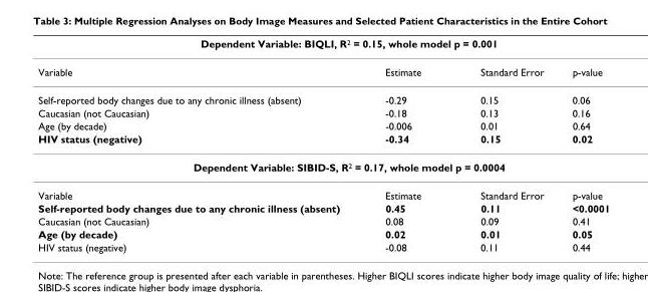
<table><thead><tr><td colspan="4">Dependent Variable: BIQLI, R<sup>2</sup> = 0.15, whole model p = 0.001</td></tr><tr><td>Variable</td><td>Estimate</td><td>Standard Error</td><td>p-value</td></tr></thead><tbody><tr><td>Self-reported body changes due to any chronic illness (absent)</td><td>-0.29</td><td>0.15</td><td>0.06</td></tr><tr><td>Caucasian (not Caucasian)</td><td>-0.18</td><td>0.13</td><td>0.16</td></tr><tr><td>Age (by decade)</td><td>-0.006</td><td>0.01</td><td>0.64</td></tr><tr><td>HIV status (negative)</td><td>-0.34</td><td>0.15</td><td>0.02</td></tr><tr><td colspan="4">Dependent Variable: SIBID-S, R<sup>2</sup> = 0.17, whole model p = 0.0004</td></tr><tr><td>Variable</td><td>Estimate</td><td>Standard Error</td><td>p-value</td></tr><tr><td>Self-reported body changes due to any chronic illness (absent)</td><td>0.45</td><td>0.11</td><td>&lt;0.0001</td></tr><tr><td>Caucasian (not Caucasian)</td><td>0.08</td><td>0.09</td><td>0.41</td></tr><tr><td>Age (by decade)</td><td>0.02</td><td>0.01</td><td>0.05</td></tr><tr><td>HIV status (negative)</td><td>-0.08</td><td>0.11</td><td>0.44</td></tr></tbody></table>